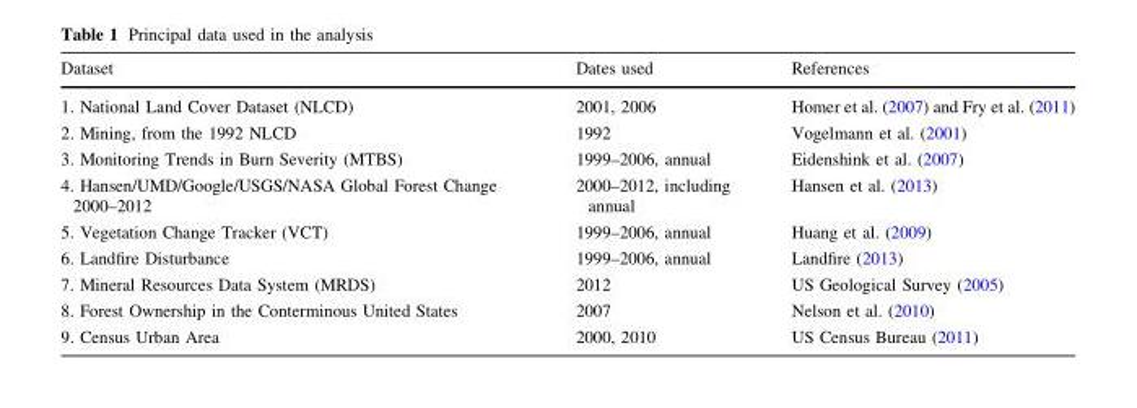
<table><thead><tr><td>Dataset</td><td>Dates used</td><td>References</td></tr></thead><tbody><tr><td>1. National Land Cover Dataset (NLCD)</td><td>2001, 2006</td><td>Homer et al. (2007) and Fry et al. (2011)</td></tr><tr><td>2. Mining, from the 1992 NLCD</td><td>1992</td><td>Vogelmann et al. (2001)</td></tr><tr><td>3. Monitoring Trends in Burn Severity (MTBS)</td><td>1999–2006, annual</td><td>Eidenshink et al. (2007)</td></tr><tr><td>4. Hansen/UMD/Google/USGS/NASA Global Forest Change 2000–2012</td><td>2000–2012, including annual</td><td>Hansen et al. (2013)</td></tr><tr><td>5. Vegetation Change Tracker (VCT)</td><td>1999–2006, annual</td><td>Huang et al. (2009)</td></tr><tr><td>6. Landfire Disturbance</td><td>1999–2006, annual</td><td>Landfire (2013)</td></tr><tr><td>7. Mineral Resources Data System (MRDS)</td><td>2012</td><td>US Geological Survey (2005)</td></tr><tr><td>8. Forest Ownership in the Conterminous United States</td><td>2007</td><td>Nelson et al. (2010)</td></tr><tr><td>9. Census Urban Area</td><td>2000, 2010</td><td>US Census Bureau (2011)</td></tr></tbody></table>